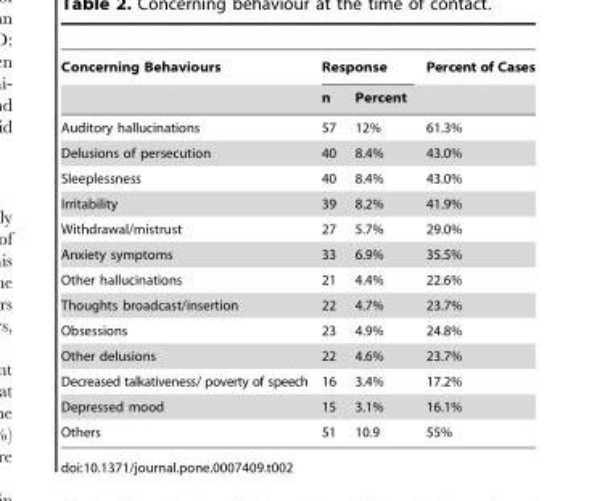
<table><thead><tr><td rowspan="2">Concerning Behaviours</td><td colspan="2">Response</td><td rowspan="2">Percent of Cases</td></tr><tr><td>n</td><td>Percent</td></tr></thead><tbody><tr><td>Auditory hallucinations</td><td>57</td><td>12%</td><td>61.3%</td></tr><tr><td>Delusions of persecution</td><td>40</td><td>8.4%</td><td>43.0%</td></tr><tr><td>Sleeplessness</td><td>40</td><td>8.4%</td><td>43.0%</td></tr><tr><td>Irritability</td><td>39</td><td>8.2%</td><td>41.9%</td></tr><tr><td>Withdrawal/mistrust</td><td>27</td><td>5.7%</td><td>29.0%</td></tr><tr><td>Anxiety symptoms</td><td>33</td><td>6.9%</td><td>35.5%</td></tr><tr><td>Other hallucinations</td><td>21</td><td>4.4%</td><td>22.6%</td></tr><tr><td>Thoughts broadcast/insertion</td><td>22</td><td>4.7%</td><td>23.7%</td></tr><tr><td>Obsessions</td><td>23</td><td>4.9%</td><td>24.8%</td></tr><tr><td>Other delusions</td><td>22</td><td>4.6%</td><td>23.7%</td></tr><tr><td>Decreased talkativeness/ poverty of speech</td><td>16</td><td>3.4%</td><td>17.2%</td></tr><tr><td>Depressed mood</td><td>15</td><td>3.1%</td><td>16.1%</td></tr><tr><td>Others</td><td>51</td><td>10.9</td><td>55%</td></tr></tbody></table>